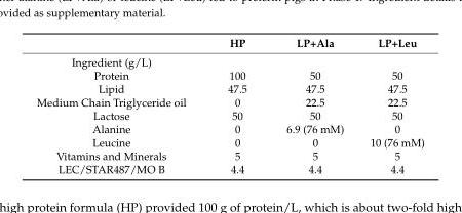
<table><thead><tr><td></td><td>HP</td><td>LP+Ala</td><td>LP+Leu</td></tr></thead><tbody><tr><td colspan="4">Ingredient (g/L)</td></tr><tr><td>Protein</td><td>100</td><td>50</td><td>50</td></tr><tr><td>Lipid</td><td>47.5</td><td>47.5</td><td>47.5</td></tr><tr><td>Medium Chain Triglyceride oil</td><td>0</td><td>22.5</td><td>22.5</td></tr><tr><td>Lactose</td><td>50</td><td>50</td><td>50</td></tr><tr><td>Alanine</td><td>0</td><td>6.9 (76 mM)</td><td>0</td></tr><tr><td>Leucine</td><td>0</td><td>0</td><td>10 (76 mM)</td></tr><tr><td>Vitamins and Minerals</td><td>5</td><td>5</td><td>5</td></tr><tr><td>LEC/STAR487/MO B</td><td>4.4</td><td>4.4</td><td>4.4</td></tr></tbody></table>